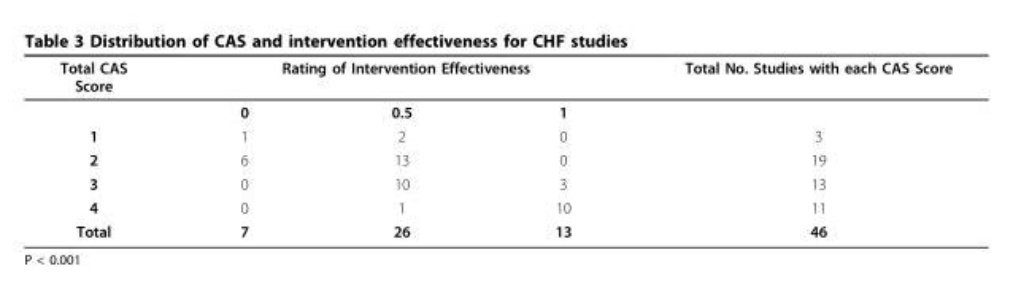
<table><thead><tr><td rowspan="2">Total CAS Score</td><td colspan="3">Rating of Intervention Effectiveness</td><td rowspan="2">Total No. Studies with each CAS Score</td></tr><tr><td>0</td><td>0.5</td><td>1</td></tr></thead><tbody><tr><td>1</td><td>1</td><td>2</td><td>0</td><td>3</td></tr><tr><td>2</td><td>6</td><td>13</td><td>0</td><td>19</td></tr><tr><td>3</td><td>0</td><td>10</td><td>3</td><td>13</td></tr><tr><td>4</td><td>0</td><td>1</td><td>10</td><td>11</td></tr><tr><td>Total</td><td>7</td><td>26</td><td>13</td><td>46</td></tr></tbody></table>